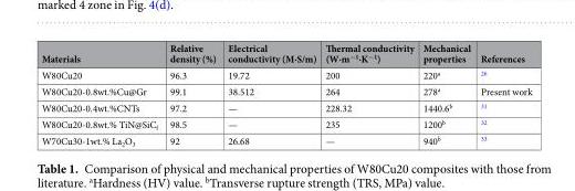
<table><thead><tr><td>Materials</td><td>Relative density (%)</td><td>Electrical conductivity (M·S/m)</td><td>Thermal conductivity (W·m<sup>−1</sup>·K<sup>−1</sup>)</td><td>Mechanical properties</td><td>References</td></tr></thead><tbody><tr><td>W80Cu20</td><td>96.3</td><td>19.72</td><td>200</td><td>220<sup>a</sup></td><td><sup>26</sup></td></tr><tr><td>W80Cu20-0.8wt.%Cu@Gr</td><td>99.1</td><td>38.512</td><td>264</td><td>278<sup>a</sup></td><td>Present work</td></tr><tr><td>W80Cu20-0.4wt.%CNTs</td><td>97.2</td><td>—</td><td>228.32</td><td>1440.6<sup>b</sup></td><td><sup>31</sup></td></tr><tr><td>W80Cu20-0.8wt.% TiN@SiC<sub>f</sub></td><td>98.5</td><td>—</td><td>235</td><td>1200<sup>b</sup></td><td><sup>32</sup></td></tr><tr><td>W70Cu30-1wt.% La<sub>2</sub>O<sub>3</sub></td><td>92</td><td>26.68</td><td>—</td><td>940<sup>b</sup></td><td><sup>33</sup></td></tr></tbody></table>